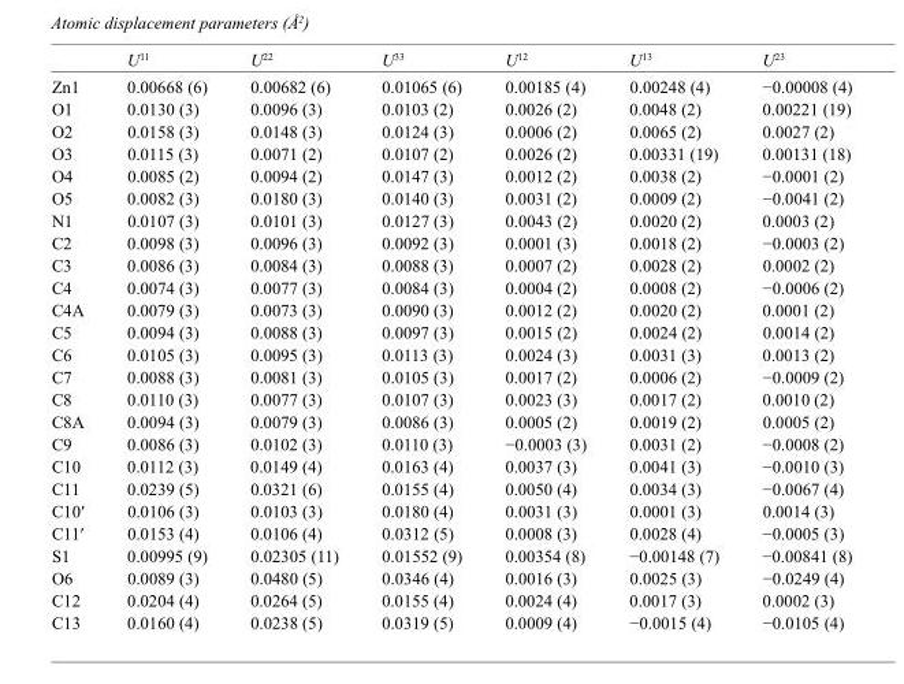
<table><thead><tr><td></td><td>U<sup>11</sup></td><td>U<sup>22</sup></td><td>U<sup>33</sup></td><td>U<sup>12</sup></td><td>U<sup>13</sup></td><td>U<sup>23</sup></td></tr></thead><tbody><tr><td>Zn1</td><td>0.00668 (6)</td><td>0.00682 (6)</td><td>0.01065 (6)</td><td>0.00185 (4)</td><td>0.00248 (4)</td><td>−0.00008 (4)</td></tr><tr><td>O1</td><td>0.0130 (3)</td><td>0.0096 (3)</td><td>0.0103 (2)</td><td>0.0026 (2)</td><td>0.0048 (2)</td><td>0.00221 (19)</td></tr><tr><td>O2</td><td>0.0158 (3)</td><td>0.0148 (3)</td><td>0.0124 (3)</td><td>0.0006 (2)</td><td>0.0065 (2)</td><td>0.0027 (2)</td></tr><tr><td>O3</td><td>0.0115 (3)</td><td>0.0071 (2)</td><td>0.0107 (2)</td><td>0.0026 (2)</td><td>0.00331 (19)</td><td>0.00131 (18)</td></tr><tr><td>O4</td><td>0.0085 (2)</td><td>0.0094 (2)</td><td>0.0147 (3)</td><td>0.0012 (2)</td><td>0.0038 (2)</td><td>−0.0001 (2)</td></tr><tr><td>O5</td><td>0.0082 (3)</td><td>0.0180 (3)</td><td>0.0140 (3)</td><td>0.0031 (2)</td><td>0.0009 (2)</td><td>−0.0041 (2)</td></tr><tr><td>N1</td><td>0.0107 (3)</td><td>0.0101 (3)</td><td>0.0127 (3)</td><td>0.0043 (2)</td><td>0.0020 (2)</td><td>0.0003 (2)</td></tr><tr><td>C2</td><td>0.0098 (3)</td><td>0.0096 (3)</td><td>0.0092 (3)</td><td>0.0001 (3)</td><td>0.0018 (2)</td><td>−0.0003 (2)</td></tr><tr><td>C3</td><td>0.0086 (3)</td><td>0.0084 (3)</td><td>0.0088 (3)</td><td>0.0007 (2)</td><td>0.0028 (2)</td><td>0.0002 (2)</td></tr><tr><td>C4</td><td>0.0074 (3)</td><td>0.0077 (3)</td><td>0.0084 (3)</td><td>0.0004 (2)</td><td>0.0008 (2)</td><td>−0.0006 (2)</td></tr><tr><td>C4A</td><td>0.0079 (3)</td><td>0.0073 (3)</td><td>0.0090 (3)</td><td>0.0012 (2)</td><td>0.0020 (2)</td><td>0.0001 (2)</td></tr><tr><td>C5</td><td>0.0094 (3)</td><td>0.0088 (3)</td><td>0.0097 (3)</td><td>0.0015 (2)</td><td>0.0024 (2)</td><td>0.0014 (2)</td></tr><tr><td>C6</td><td>0.0105 (3)</td><td>0.0095 (3)</td><td>0.0113 (3)</td><td>0.0024 (3)</td><td>0.0031 (3)</td><td>0.0013 (2)</td></tr><tr><td>C7</td><td>0.0088 (3)</td><td>0.0081 (3)</td><td>0.0105 (3)</td><td>0.0017 (2)</td><td>0.0006 (2)</td><td>−0.0009 (2)</td></tr><tr><td>C8</td><td>0.0110 (3)</td><td>0.0077 (3)</td><td>0.0107 (3)</td><td>0.0023 (3)</td><td>0.0017 (2)</td><td>0.0010 (2)</td></tr><tr><td>C8A</td><td>0.0094 (3)</td><td>0.0079 (3)</td><td>0.0086 (3)</td><td>0.0005 (2)</td><td>0.0019 (2)</td><td>0.0005 (2)</td></tr><tr><td>C9</td><td>0.0086 (3)</td><td>0.0102 (3)</td><td>0.0110 (3)</td><td>−0.0003 (3)</td><td>0.0031 (2)</td><td>−0.0008 (2)</td></tr><tr><td>C10</td><td>0.0112 (3)</td><td>0.0149 (4)</td><td>0.0163 (4)</td><td>0.0037 (3)</td><td>0.0041 (3)</td><td>−0.0010 (3)</td></tr><tr><td>C11</td><td>0.0239 (5)</td><td>0.0321 (6)</td><td>0.0155 (4)</td><td>0.0050 (4)</td><td>0.0034 (3)</td><td>−0.0067 (4)</td></tr><tr><td>C10′</td><td>0.0106 (3)</td><td>0.0103 (3)</td><td>0.0180 (4)</td><td>0.0031 (3)</td><td>0.0001 (3)</td><td>0.0014 (3)</td></tr><tr><td>C11′</td><td>0.0153 (4)</td><td>0.0106 (4)</td><td>0.0312 (5)</td><td>0.0008 (3)</td><td>0.0028 (4)</td><td>−0.0005 (3)</td></tr><tr><td>S1</td><td>0.00995 (9)</td><td>0.02305 (11)</td><td>0.01552 (9)</td><td>0.00354 (8)</td><td>−0.00148 (7)</td><td>−0.00841 (8)</td></tr><tr><td>O6</td><td>0.0089 (3)</td><td>0.0480 (5)</td><td>0.0346 (4)</td><td>0.0016 (3)</td><td>0.0025 (3)</td><td>−0.0249 (4)</td></tr><tr><td>C12</td><td>0.0204 (4)</td><td>0.0264 (5)</td><td>0.0155 (4)</td><td>0.0024 (4)</td><td>0.0017 (3)</td><td>0.0002 (3)</td></tr><tr><td>C13</td><td>0.0160 (4)</td><td>0.0238 (5)</td><td>0.0319 (5)</td><td>0.0009 (4)</td><td>−0.0015 (4)</td><td>−0.0105 (4)</td></tr></tbody></table>